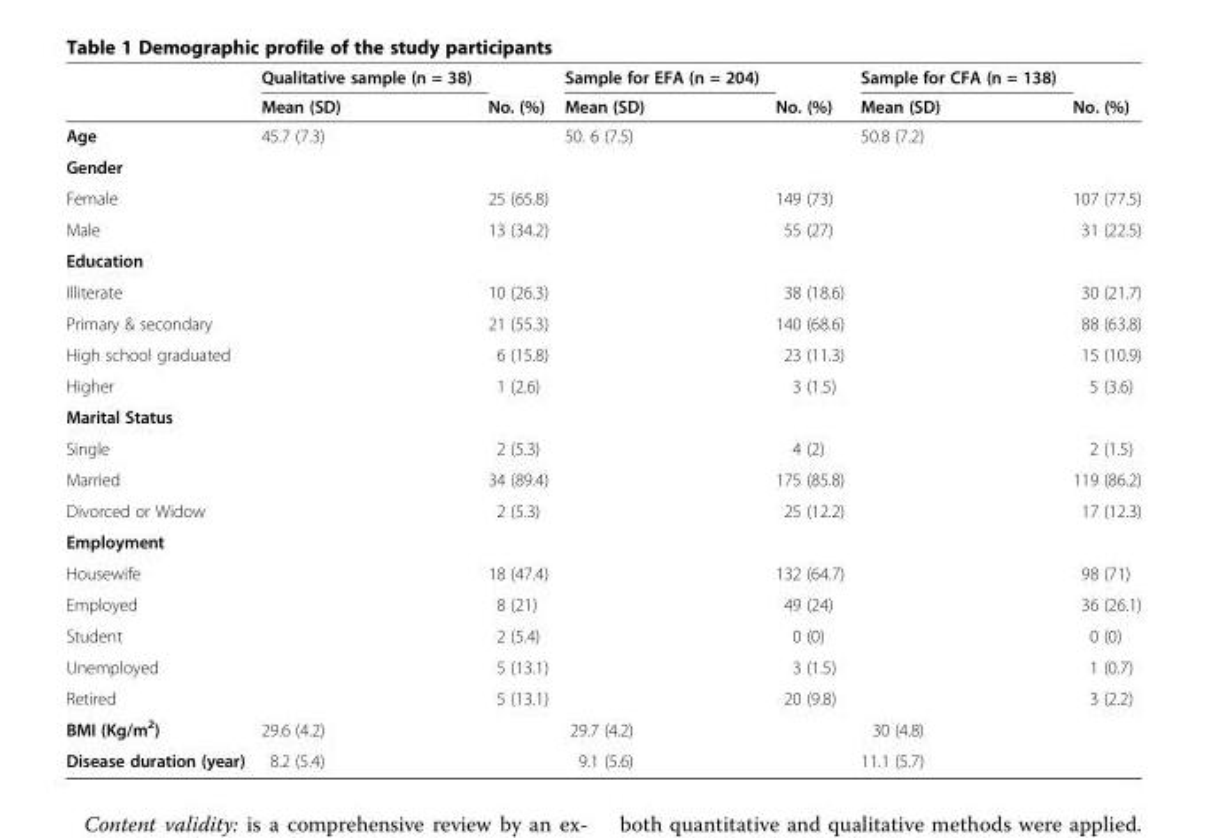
<table><thead><tr><td></td><td>Qualitative sample (n = 38)</td><td></td><td>Sample for EFA (n = 204)</td><td></td><td>Sample for CFA (n = 138)</td><td></td></tr></thead><tbody><tr><td></td><td>Mean (SD)</td><td>No. (%)</td><td>Mean (SD)</td><td>No. (%)</td><td>Mean (SD)</td><td>No. (%)</td></tr><tr><td>Age</td><td>45.7 (7.3)</td><td></td><td>50. 6 (7.5)</td><td></td><td>50.8 (7.2)</td><td></td></tr><tr><td colspan="7">Gender</td></tr><tr><td>Female</td><td></td><td>25 (65.8)</td><td></td><td>149 (73)</td><td></td><td>107 (77.5)</td></tr><tr><td>Male</td><td></td><td>13 (34.2)</td><td></td><td>55 (27)</td><td></td><td>31 (22.5)</td></tr><tr><td colspan="7">Education</td></tr><tr><td>Illiterate</td><td></td><td>10 (26.3)</td><td></td><td>38 (18.6)</td><td></td><td>30 (21.7)</td></tr><tr><td>Primary &amp; secondary</td><td></td><td>21 (55.3)</td><td></td><td>140 (68.6)</td><td></td><td>88 (63.8)</td></tr><tr><td>High school graduated</td><td></td><td>6 (15.8)</td><td></td><td>23 (11.3)</td><td></td><td>15 (10.9)</td></tr><tr><td>Higher</td><td></td><td>1 (2.6)</td><td></td><td>3 (1.5)</td><td></td><td>5 (3.6)</td></tr><tr><td colspan="7">Marital Status</td></tr><tr><td>Single</td><td></td><td>2 (5.3)</td><td></td><td>4 (2)</td><td></td><td>2 (1.5)</td></tr><tr><td>Married</td><td></td><td>34 (89.4)</td><td></td><td>175 (85.8)</td><td></td><td>119 (86.2)</td></tr><tr><td>Divorced or Widow</td><td></td><td>2 (5.3)</td><td></td><td>25 (12.2)</td><td></td><td>17 (12.3)</td></tr><tr><td colspan="7">Employment</td></tr><tr><td>Housewife</td><td></td><td>18 (47.4)</td><td></td><td>132 (64.7)</td><td></td><td>98 (71)</td></tr><tr><td>Employed</td><td></td><td>8 (21)</td><td></td><td>49 (24)</td><td></td><td>36 (26.1)</td></tr><tr><td>Student</td><td></td><td>2 (5.4)</td><td></td><td>0 (0)</td><td></td><td>0 (0)</td></tr><tr><td>Unemployed</td><td></td><td>5 (13.1)</td><td></td><td>3 (1.5)</td><td></td><td>1 (0.7)</td></tr><tr><td>Retired</td><td></td><td>5 (13.1)</td><td></td><td>20 (9.8)</td><td></td><td>3 (2.2)</td></tr><tr><td>BMI (Kg/m<sup>2</sup>)</td><td>29.6 (4.2)</td><td></td><td>29.7 (4.2)</td><td></td><td>30 (4.8)</td><td></td></tr><tr><td>Disease duration (year)</td><td>8.2 (5.4)</td><td></td><td>9.1 (5.6)</td><td></td><td>11.1 (5.7)</td><td></td></tr></tbody></table>